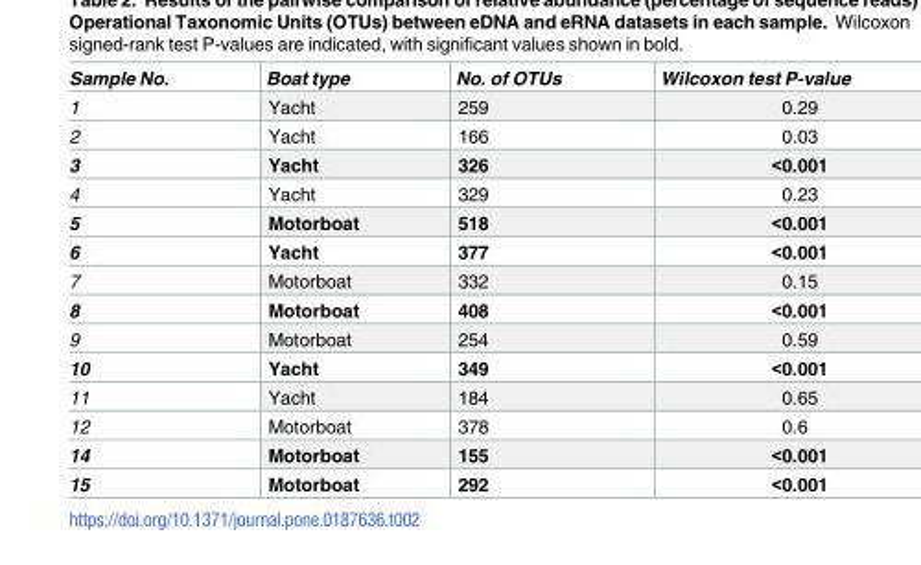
<table><thead><tr><td>Sample No.</td><td>Boat type</td><td>No. of OTUs</td><td>Wilcoxon test P-value</td></tr></thead><tbody><tr><td>1</td><td>Yacht</td><td>259</td><td>0.29</td></tr><tr><td>2</td><td>Yacht</td><td>166</td><td>0.03</td></tr><tr><td>3</td><td>Yacht</td><td>326</td><td>&lt;0.001</td></tr><tr><td>4</td><td>Yacht</td><td>329</td><td>0.23</td></tr><tr><td>5</td><td>Motorboat</td><td>518</td><td>&lt;0.001</td></tr><tr><td>6</td><td>Yacht</td><td>377</td><td>&lt;0.001</td></tr><tr><td>7</td><td>Motorboat</td><td>332</td><td>0.15</td></tr><tr><td>8</td><td>Motorboat</td><td>408</td><td>&lt;0.001</td></tr><tr><td>9</td><td>Motorboat</td><td>254</td><td>0.59</td></tr><tr><td>10</td><td>Yacht</td><td>349</td><td>&lt;0.001</td></tr><tr><td>11</td><td>Yacht</td><td>184</td><td>0.65</td></tr><tr><td>12</td><td>Motorboat</td><td>378</td><td>0.6</td></tr><tr><td>14</td><td>Motorboat</td><td>155</td><td>&lt;0.001</td></tr><tr><td>15</td><td>Motorboat</td><td>292</td><td>&lt;0.001</td></tr></tbody></table>